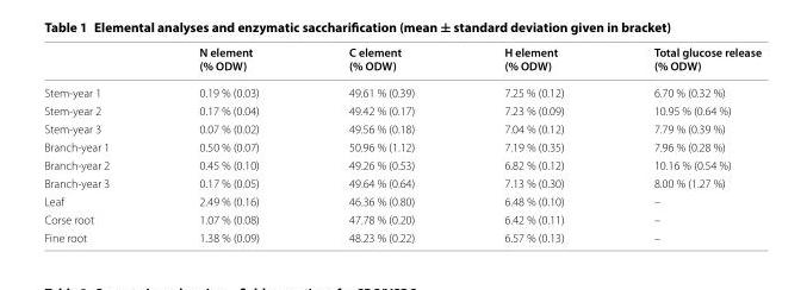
<table><thead><tr><td></td><td>N element (% ODW)</td><td>C element (% ODW)</td><td>H element (% ODW)</td><td>Total glucose release (% ODW)</td></tr></thead><tbody><tr><td>Stem-year 1</td><td>0.19 % (0.03)</td><td>49.61 % (0.39)</td><td>7.25 % (0.12)</td><td>6.70 % (0.32 %)</td></tr><tr><td>Stem-year 2</td><td>0.17 % (0.04)</td><td>49.42 % (0.17)</td><td>7.23 % (0.09)</td><td>10.95 % (0.64 %)</td></tr><tr><td>Stem-year 3</td><td>0.07 % (0.02)</td><td>49.56 % (0.18)</td><td>7.04 % (0.12)</td><td>7.79 % (0.39 %)</td></tr><tr><td>Branch-year 1</td><td>0.50 % (0.07)</td><td>50.96 % (1.12)</td><td>7.19 % (0.35)</td><td>7.96 % (0.28 %)</td></tr><tr><td>Branch-year 2</td><td>0.45 % (0.10)</td><td>49.26 % (0.53)</td><td>6.82 % (0.12)</td><td>10.16 % (0.54 %)</td></tr><tr><td>Branch-year 3</td><td>0.17 % (0.05)</td><td>49.64 % (0.64)</td><td>7.13 % (0.30)</td><td>8.00 % (1.27 %)</td></tr><tr><td>Leaf</td><td>2.49 % (0.16)</td><td>46.36 % (0.80)</td><td>6.48 % (0.10)</td><td>–</td></tr><tr><td>Corse root</td><td>1.07 % (0.08)</td><td>47.78 % (0.20)</td><td>6.42 % (0.11)</td><td>–</td></tr><tr><td>Fine root</td><td>1.38 % (0.09)</td><td>48.23 % (0.22)</td><td>6.57 % (0.13)</td><td>–</td></tr></tbody></table>